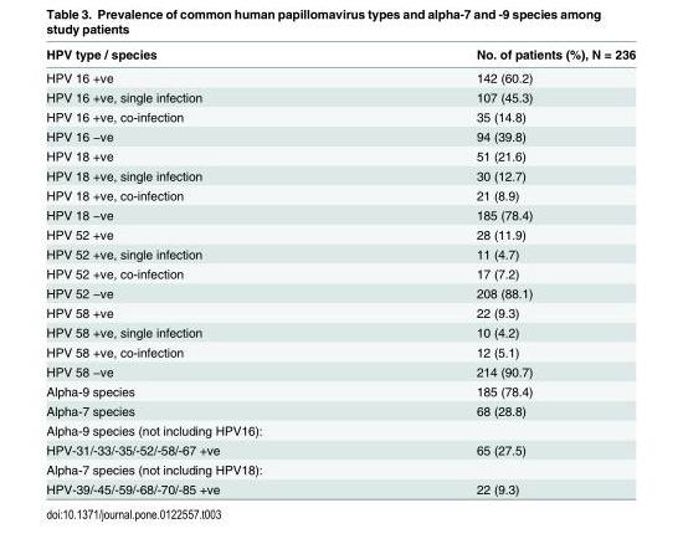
<table><thead><tr><td>HPV type / species</td><td>No. of patients (%), N = 236</td></tr></thead><tbody><tr><td>HPV 16 +ve</td><td>142 (60.2)</td></tr><tr><td>HPV 16 +ve, single infection</td><td>107 (45.3)</td></tr><tr><td>HPV 16 +ve, co-infection</td><td>35 (14.8)</td></tr><tr><td>HPV 16 −ve</td><td>94 (39.8)</td></tr><tr><td>HPV 18 +ve</td><td>51 (21.6)</td></tr><tr><td>HPV 18 +ve, single infection</td><td>30 (12.7)</td></tr><tr><td>HPV 18 +ve, co-infection</td><td>21 (8.9)</td></tr><tr><td>HPV 18 −ve</td><td>185 (78.4)</td></tr><tr><td>HPV 52 +ve</td><td>28 (11.9)</td></tr><tr><td>HPV 52 +ve, single infection</td><td>11 (4.7)</td></tr><tr><td>HPV 52 +ve, co-infection</td><td>17 (7.2)</td></tr><tr><td>HPV 52 −ve</td><td>208 (88.1)</td></tr><tr><td>HPV 58 +ve</td><td>22 (9.3)</td></tr><tr><td>HPV 58 +ve, single infection</td><td>10 (4.2)</td></tr><tr><td>HPV 58 +ve, co-infection</td><td>12 (5.1)</td></tr><tr><td>HPV 58 −ve</td><td>214 (90.7)</td></tr><tr><td>Alpha-9 species</td><td>185 (78.4)</td></tr><tr><td>Alpha-7 species</td><td>68 (28.8)</td></tr><tr><td colspan="2">Alpha-9 species (not including HPV16):</td></tr><tr><td>HPV-31/-33/-35/-52/-58/-67 +ve</td><td>65 (27.5)</td></tr><tr><td colspan="2">Alpha-7 species (not including HPV18):</td></tr><tr><td>HPV-39/-45/-59/-68/-70/-85 +ve</td><td>22 (9.3)</td></tr></tbody></table>